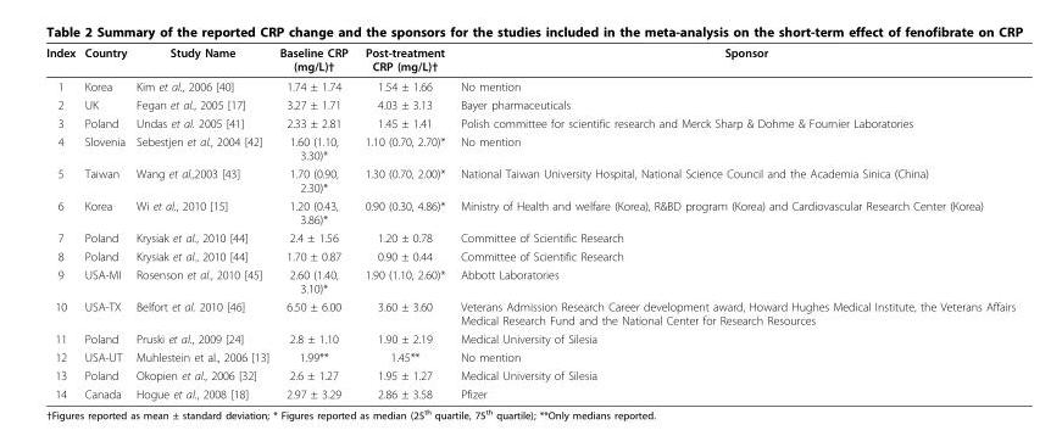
<table><thead><tr><td>Index</td><td>Country</td><td>Study Name</td><td>Baseline CRP (mg/L)†</td><td>Post-treatment CRP (mg/L)†</td><td>Sponsor</td></tr></thead><tbody><tr><td>1</td><td>Korea</td><td>Kim et al., 2006 [40]</td><td>1.74 ± 1.74</td><td>1.54 ± 1.66</td><td>No mention</td></tr><tr><td>2</td><td>UK</td><td>Fegan et al., 2005 [17]</td><td>3.27 ± 1.71</td><td>4.03 ± 3.13</td><td>Bayer pharmaceuticals</td></tr><tr><td>3</td><td>Poland</td><td>Undas et al. 2005 [41]</td><td>2.33 ± 2.81</td><td>1.45 ± 1.41</td><td>Polish committee for scientific research and Merck Sharp &amp; Dohme &amp; Fournier Laboratories</td></tr><tr><td>4</td><td>Slovenia</td><td>Sebestjen et al., 2004 [42]</td><td>1.60 (1.10, 3.30)*</td><td>1.10 (0.70, 2.70)*</td><td>No mention</td></tr><tr><td>5</td><td>Taiwan</td><td>Wang et al.,2003 [43]</td><td>1.70 (0.90, 2.30)*</td><td>1.30 (0.70, 2.00)*</td><td>National Taiwan University Hospital, National Science Council and the Academia Sinica (China)</td></tr><tr><td>6</td><td>Korea</td><td>Wi et al., 2010 [15]</td><td>1.20 (0.43, 3.86)*</td><td>0.90 (0.30, 4.86)*</td><td>Ministry of Health and welfare (Korea), R&amp;BD program (Korea) and Cardiovascular Research Center (Korea)</td></tr><tr><td>7</td><td>Poland</td><td>Krysiak et al., 2010 [44]</td><td>2.4 ± 1.56</td><td>1.20 ± 0.78</td><td>Committee of Scientific Research</td></tr><tr><td>8</td><td>Poland</td><td>Krysiak et al., 2010 [44]</td><td>1.70 ± 0.87</td><td>0.90 ± 0.44</td><td>Committee of Scientific Research</td></tr><tr><td>9</td><td>USA-MI</td><td>Rosenson et al., 2010 [45]</td><td>2.60 (1.40, 3.10)*</td><td>1.90 (1.10, 2.60)*</td><td>Abbott Laboratories</td></tr><tr><td>10</td><td>USA-TX</td><td>Belfort et al. 2010 [46]</td><td>6.50 ± 6.00</td><td>3.60 ± 3.60</td><td>Veterans Admission Research Career development award, Howard Hughes Medical Institute, the Veterans Affairs Medical Research Fund and the National Center for Research Resources</td></tr><tr><td>11</td><td>Poland</td><td>Pruski et al., 2009 [24]</td><td>2.8 ± 1.10</td><td>1.90 ± 2.19</td><td>Medical University of Silesia</td></tr><tr><td>12</td><td>USA-UT</td><td>Muhlestein et al., 2006 [13]</td><td>1.99**</td><td>1.45**</td><td>No mention</td></tr><tr><td>13</td><td>Poland</td><td>Okopien et al., 2006 [32]</td><td>2.6 ± 1.27</td><td>1.95 ± 1.27</td><td>Medical University of Silesia</td></tr><tr><td>14</td><td>Canada</td><td>Hogue et al., 2008 [18]</td><td>2.97 ± 3.29</td><td>2.86 ± 3.58</td><td>Pfizer</td></tr></tbody></table>